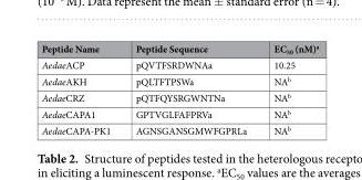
<table><thead><tr><td>Peptide Name</td><td>Peptide Sequence</td><td>EC<sub>50</sub> (nM)<sup>a</sup></td></tr></thead><tbody><tr><td>AedaeACP</td><td>pQVTFSRDWNAa</td><td>10.25</td></tr><tr><td>AedaeAKH</td><td>pQLTFTPSWa</td><td>NA<sup>b</sup></td></tr><tr><td>AedaeCRZ</td><td>pQTFQYSRGWNTNa</td><td>NA<sup>b</sup></td></tr><tr><td>AedaeCAPA1</td><td>GPTVGLFAFPRVa</td><td>NA<sup>b</sup></td></tr><tr><td>AedaeCAPA-PK1</td><td>AGNSGANSGMWFGPRLa</td><td>NA<sup>b</sup></td></tr></tbody></table>